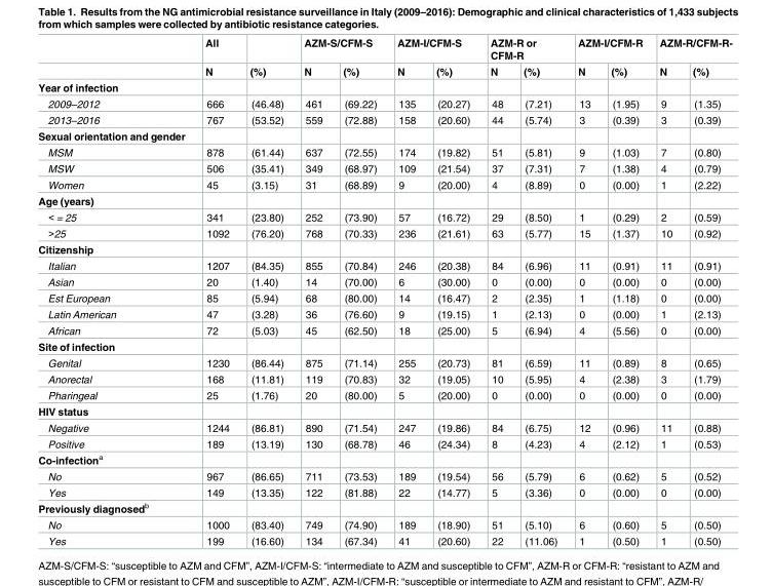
<table><thead><tr><td rowspan="2"></td><td rowspan="2">All N</td><td rowspan="2">(%)</td><td colspan="2">AZM-S/CFM-S</td><td colspan="2">AZM-I/CFM-S</td><td colspan="2">AZM-R or CFM-R</td><td colspan="2">AZM-I/CFM-R</td><td colspan="2">AZM-R/CFM-R-</td></tr><tr><td>N</td><td>(%)</td><td>N</td><td>(%)</td><td>N</td><td>(%)</td><td>N</td><td>(%)</td><td>N</td><td>(%)</td></tr></thead><tbody><tr><td colspan="13">Year of infection</td></tr><tr><td>2009–2012</td><td>666</td><td>(46.48)</td><td>461</td><td>(69.22)</td><td>135</td><td>(20.27)</td><td>48</td><td>(7.21)</td><td>13</td><td>(1.95)</td><td>9</td><td>(1.35)</td></tr><tr><td>2013–2016</td><td>767</td><td>(53.52)</td><td>559</td><td>(72.88)</td><td>158</td><td>(20.60)</td><td>44</td><td>(5.74)</td><td>3</td><td>(0.39)</td><td>3</td><td>(0.39)</td></tr><tr><td colspan="13">Sexual orientation and gender</td></tr><tr><td>MSM</td><td>878</td><td>(61.44)</td><td>637</td><td>(72.55)</td><td>174</td><td>(19.82)</td><td>51</td><td>(5.81)</td><td>9</td><td>(1.03)</td><td>7</td><td>(0.80)</td></tr><tr><td>MSW</td><td>506</td><td>(35.41)</td><td>349</td><td>(68.97)</td><td>109</td><td>(21.54)</td><td>37</td><td>(7.31)</td><td>7</td><td>(1.38)</td><td>4</td><td>(0.79)</td></tr><tr><td>Women</td><td>45</td><td>(3.15)</td><td>31</td><td>(68.89)</td><td>9</td><td>(20.00)</td><td>4</td><td>(8.89)</td><td>0</td><td>(0.00)</td><td>1</td><td>(2.22)</td></tr><tr><td colspan="13">Age (years)</td></tr><tr><td>&lt; = 25</td><td>341</td><td>(23.80)</td><td>252</td><td>(73.90)</td><td>57</td><td>(16.72)</td><td>29</td><td>(8.50)</td><td>1</td><td>(0.29)</td><td>2</td><td>(0.59)</td></tr><tr><td>&gt;25</td><td>1092</td><td>(76.20)</td><td>768</td><td>(70.33)</td><td>236</td><td>(21.61)</td><td>63</td><td>(5.77)</td><td>15</td><td>(1.37)</td><td>10</td><td>(0.92)</td></tr><tr><td colspan="13">Citizenship</td></tr><tr><td>Italian</td><td>1207</td><td>(84.35)</td><td>855</td><td>(70.84)</td><td>246</td><td>(20.38)</td><td>84</td><td>(6.96)</td><td>11</td><td>(0.91)</td><td>11</td><td>(0.91)</td></tr><tr><td>Asian</td><td>20</td><td>(1.40)</td><td>14</td><td>(70.00)</td><td>6</td><td>(30.00)</td><td>0</td><td>(0.00)</td><td>0</td><td>(0.00)</td><td>0</td><td>(0.00)</td></tr><tr><td>Est European</td><td>85</td><td>(5.94)</td><td>68</td><td>(80.00)</td><td>14</td><td>(16.47)</td><td>2</td><td>(2.35)</td><td>1</td><td>(1.18)</td><td>0</td><td>(0.00)</td></tr><tr><td>Latin American</td><td>47</td><td>(3.28)</td><td>36</td><td>(76.60)</td><td>9</td><td>(19.15)</td><td>1</td><td>(2.13)</td><td>0</td><td>(0.00)</td><td>1</td><td>(2.13)</td></tr><tr><td>African</td><td>72</td><td>(5.03)</td><td>45</td><td>(62.50)</td><td>18</td><td>(25.00)</td><td>5</td><td>(6.94)</td><td>4</td><td>(5.56)</td><td>0</td><td>(0.00)</td></tr><tr><td colspan="13">Site of infection</td></tr><tr><td>Genital</td><td>1230</td><td>(86.44)</td><td>875</td><td>(71.14)</td><td>255</td><td>(20.73)</td><td>81</td><td>(6.59)</td><td>11</td><td>(0.89)</td><td>8</td><td>(0.65)</td></tr><tr><td>Anorectal</td><td>168</td><td>(11.81)</td><td>119</td><td>(70.83)</td><td>32</td><td>(19.05)</td><td>10</td><td>(5.95)</td><td>4</td><td>(2.38)</td><td>3</td><td>(1.79)</td></tr><tr><td>Pharingeal</td><td>25</td><td>(1.76)</td><td>20</td><td>(80.00)</td><td>5</td><td>(20.00)</td><td>0</td><td>(0.00)</td><td>0</td><td>(0.00)</td><td>0</td><td>(0.00)</td></tr><tr><td colspan="13">HIV status</td></tr><tr><td>Negative</td><td>1244</td><td>(86.81)</td><td>890</td><td>(71.54)</td><td>247</td><td>(19.86)</td><td>84</td><td>(6.75)</td><td>12</td><td>(0.96)</td><td>11</td><td>(0.88)</td></tr><tr><td>Positive</td><td>189</td><td>(13.19)</td><td>130</td><td>(68.78)</td><td>46</td><td>(24.34)</td><td>8</td><td>(4.23)</td><td>4</td><td>(2.12)</td><td>1</td><td>(0.53)</td></tr><tr><td colspan="13">Co-infection<sup>a</sup></td></tr><tr><td>No</td><td>967</td><td>(86.65)</td><td>711</td><td>(73.53)</td><td>189</td><td>(19.54)</td><td>56</td><td>(5.79)</td><td>6</td><td>(0.62)</td><td>5</td><td>(0.52)</td></tr><tr><td>Yes</td><td>149</td><td>(13.35)</td><td>122</td><td>(81.88)</td><td>22</td><td>(14.77)</td><td>5</td><td>(3.36)</td><td>0</td><td>(0.00)</td><td>0</td><td>(0.00)</td></tr><tr><td colspan="13">Previously diagnosed<sup>b</sup></td></tr><tr><td>No</td><td>1000</td><td>(83.40)</td><td>749</td><td>(74.90)</td><td>189</td><td>(18.90)</td><td>51</td><td>(5.10)</td><td>6</td><td>(0.60)</td><td>5</td><td>(0.50)</td></tr><tr><td>Yes</td><td>199</td><td>(16.60)</td><td>134</td><td>(67.34)</td><td>41</td><td>(20.60)</td><td>22</td><td>(11.06)</td><td>1</td><td>(0.50)</td><td>1</td><td>(0.50)</td></tr></tbody></table>